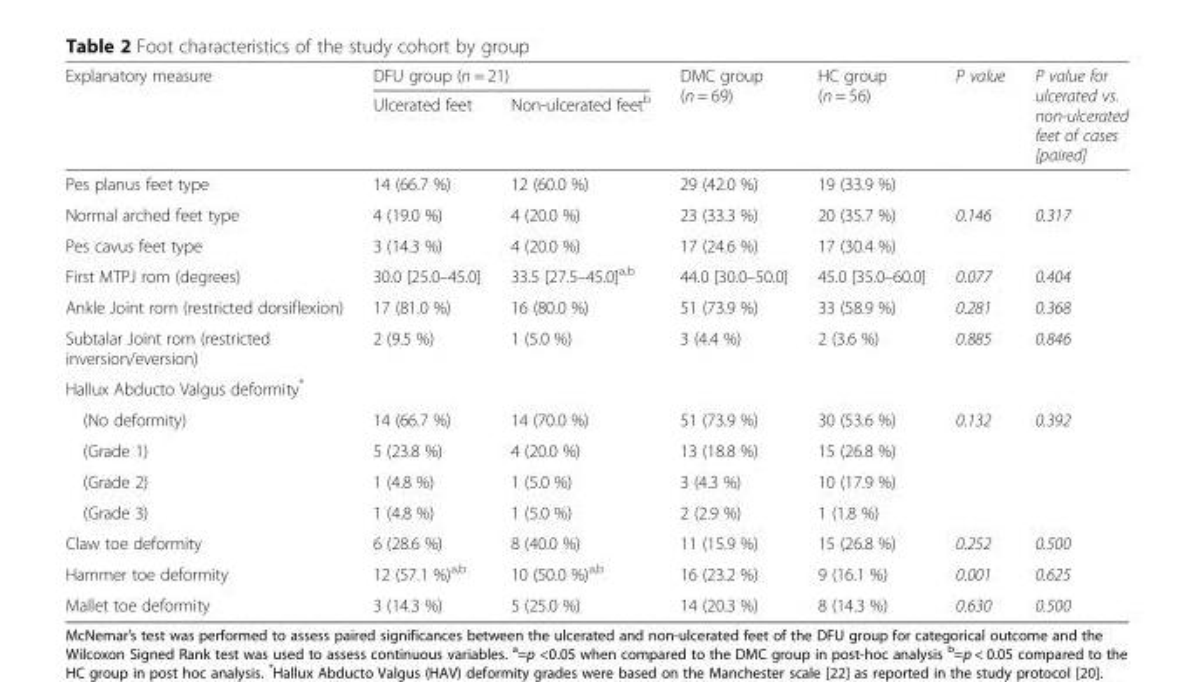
<table><thead><tr><td rowspan="2">Explanatory measure</td><td colspan="2">DFU group (n = 21)</td><td rowspan="2">DMC group (n = 69)</td><td rowspan="2">HC group (n = 56)</td><td rowspan="2">P value</td><td rowspan="2">P value for ulcerated vs. non-ulcerated feet of cases [paired]</td></tr><tr><td>Ulcerated feet</td><td>Non-ulcerated feet<sup>b</sup></td></tr></thead><tbody><tr><td>Pes planus feet type</td><td>14 (66.7 %)</td><td>12 (60.0 %)</td><td>29 (42.0 %)</td><td>19 (33.9 %)</td><td></td><td></td></tr><tr><td>Normal arched feet type</td><td>4 (19.0 %)</td><td>4 (20.0 %)</td><td>23 (33.3 %)</td><td>20 (35.7 %)</td><td>0.146</td><td>0.317</td></tr><tr><td>Pes cavus feet type</td><td>3 (14.3 %)</td><td>4 (20.0 %)</td><td>17 (24.6 %)</td><td>17 (30.4 %)</td><td></td><td></td></tr><tr><td>First MTPJ rom (degrees)</td><td>30.0 [25.0–45.0]</td><td>33.5 [27.5–45.0]<sup>a,b</sup></td><td>44.0 [30.0–50.0]</td><td>45.0 [35.0–60.0]</td><td>0.077</td><td>0.404</td></tr><tr><td>Ankle Joint rom (restricted dorsiflexion)</td><td>17 (81.0 %)</td><td>16 (80.0 %)</td><td>51 (73.9 %)</td><td>33 (58.9 %)</td><td>0.281</td><td>0.368</td></tr><tr><td>Subtalar Joint rom (restricted inversion/eversion)</td><td>2 (9.5 %)</td><td>1 (5.0 %)</td><td>3 (4.4 %)</td><td>2 (3.6 %)</td><td>0.885</td><td>0.846</td></tr><tr><td colspan="7">Hallux Abducto Valgus deformity*</td></tr><tr><td>(No deformity)</td><td>14 (66.7 %)</td><td>14 (70.0 %)</td><td>51 (73.9 %)</td><td>30 (53.6 %)</td><td rowspan="4">0.132</td><td rowspan="4">0.392</td></tr><tr><td>(Grade 1)</td><td>5 (23.8 %)</td><td>4 (20.0 %)</td><td>13 (18.8 %)</td><td>15 (26.8 %)</td></tr><tr><td>(Grade 2)</td><td>1 (4.8 %)</td><td>1 (5.0 %)</td><td>3 (4.3 %)</td><td>10 (17.9 %)</td></tr><tr><td>(Grade 3)</td><td>1 (4.8 %)</td><td>1 (5.0 %)</td><td>2 (2.9 %)</td><td>1 (1.8 %)</td></tr><tr><td>Claw toe deformity</td><td>6 (28.6 %)</td><td>8 (40.0 %)</td><td>11 (15.9 %)</td><td>15 (26.8 %)</td><td>0.252</td><td>0.500</td></tr><tr><td>Hammer toe deformity</td><td>12 (57.1 %)<sup>a,b</sup></td><td>10 (50.0 %)<sup>a,b</sup></td><td>16 (23.2 %)</td><td>9 (16.1 %)</td><td>0.001</td><td>0.625</td></tr><tr><td>Mallet toe deformity</td><td>3 (14.3 %)</td><td>5 (25.0 %)</td><td>14 (20.3 %)</td><td>8 (14.3 %)</td><td>0.630</td><td>0.500</td></tr></tbody></table>